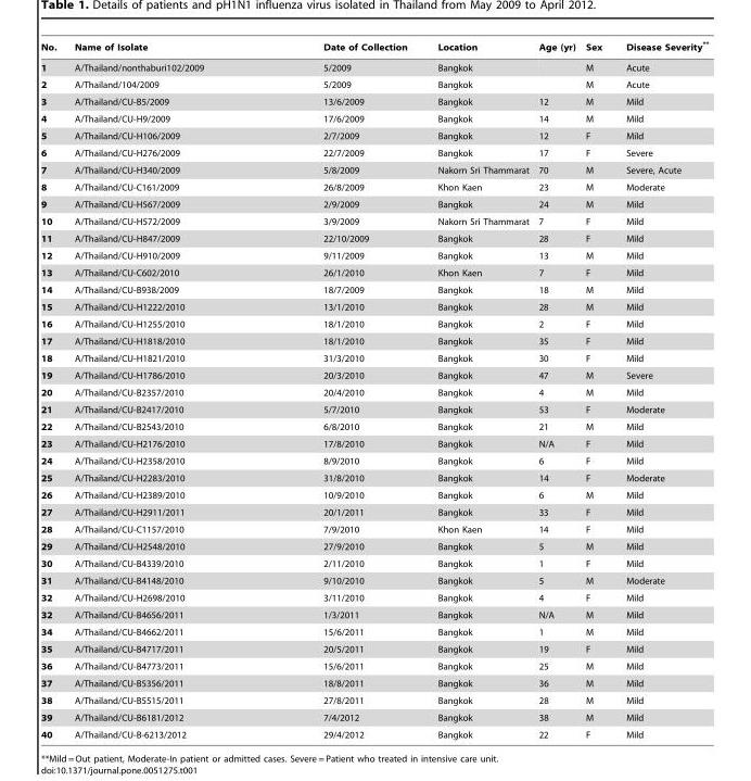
<table><thead><tr><td>No.</td><td>Name of Isolate</td><td>Date of Collection</td><td>Location</td><td>Age (yr)</td><td>Sex</td><td>Disease Severity**</td></tr></thead><tbody><tr><td>1</td><td>A/Thailand/nonthaburi102/2009</td><td>5/2009</td><td>Bangkok</td><td></td><td>M</td><td>Acute</td></tr><tr><td>2</td><td>A/Thailand/104/2009</td><td>5/2009</td><td>Bangkok</td><td></td><td>M</td><td>Acute</td></tr><tr><td>3</td><td>A/Thailand/CU-B5/2009</td><td>13/6/2009</td><td>Bangkok</td><td>12</td><td>M</td><td>Mild</td></tr><tr><td>4</td><td>A/Thailand/CU-H9/2009</td><td>17/6/2009</td><td>Bangkok</td><td>14</td><td>M</td><td>Mild</td></tr><tr><td>5</td><td>A/Thailand/CU-H106/2009</td><td>2/7/2009</td><td>Bangkok</td><td>12</td><td>F</td><td>Mild</td></tr><tr><td>6</td><td>A/Thailand/CU-H276/2009</td><td>22/7/2009</td><td>Bangkok</td><td>17</td><td>F</td><td>Severe</td></tr><tr><td>7</td><td>A/Thailand/CU-H340/2009</td><td>5/8/2009</td><td>Nakorn Sri Thammarat</td><td>70</td><td>M</td><td>Severe, Acute</td></tr><tr><td>8</td><td>A/Thailand/CU-C161/2009</td><td>26/8/2009</td><td>Khon Kaen</td><td>23</td><td>M</td><td>Moderate</td></tr><tr><td>9</td><td>A/Thailand/CU-H567/2009</td><td>2/9/2009</td><td>Bangkok</td><td>24</td><td>M</td><td>Mild</td></tr><tr><td>10</td><td>A/Thailand/CU-H572/2009</td><td>3/9/2009</td><td>Nakorn Sri Thammarat</td><td>7</td><td>F</td><td>Mild</td></tr><tr><td>11</td><td>A/Thailand/CU-H847/2009</td><td>22/10/2009</td><td>Bangkok</td><td>28</td><td>F</td><td>Mild</td></tr><tr><td>12</td><td>A/Thailand/CU-H910/2009</td><td>9/11/2009</td><td>Bangkok</td><td>13</td><td>M</td><td>Mild</td></tr><tr><td>13</td><td>A/Thailand/CU-C602/2010</td><td>26/1/2010</td><td>Khon Kaen</td><td>7</td><td>F</td><td>Mild</td></tr><tr><td>14</td><td>A/Thailand/CU-B938/2009</td><td>18/7/2009</td><td>Bangkok</td><td>18</td><td>M</td><td>Mild</td></tr><tr><td>15</td><td>A/Thailand/CU-H1222/2010</td><td>13/1/2010</td><td>Bangkok</td><td>28</td><td>M</td><td>Mild</td></tr><tr><td>16</td><td>A/Thailand/CU-H1255/2010</td><td>18/1/2010</td><td>Bangkok</td><td>2</td><td>F</td><td>Mild</td></tr><tr><td>17</td><td>A/Thailand/CU-H1818/2010</td><td>18/1/2010</td><td>Bangkok</td><td>35</td><td>F</td><td>Mild</td></tr><tr><td>18</td><td>A/Thailand/CU-H1821/2010</td><td>31/3/2010</td><td>Bangkok</td><td>30</td><td>F</td><td>Mild</td></tr><tr><td>19</td><td>A/Thailand/CU-H1786/2010</td><td>20/3/2010</td><td>Bangkok</td><td>47</td><td>M</td><td>Severe</td></tr><tr><td>20</td><td>A/Thailand/CU-B2357/2010</td><td>20/4/2010</td><td>Bangkok</td><td>4</td><td>M</td><td>Mild</td></tr><tr><td>21</td><td>A/Thailand/CU-B2417/2010</td><td>5/7/2010</td><td>Bangkok</td><td>53</td><td>F</td><td>Moderate</td></tr><tr><td>22</td><td>A/Thailand/CU-B2543/2010</td><td>6/8/2010</td><td>Bangkok</td><td>21</td><td>M</td><td>Mild</td></tr><tr><td>23</td><td>A/Thailand/CU-H2176/2010</td><td>17/8/2010</td><td>Bangkok</td><td>N/A</td><td>F</td><td>Mild</td></tr><tr><td>24</td><td>A/Thailand/CU-H2358/2010</td><td>8/9/2010</td><td>Bangkok</td><td>6</td><td>F</td><td>Mild</td></tr><tr><td>25</td><td>A/Thailand/CU-H2283/2010</td><td>31/8/2010</td><td>Bangkok</td><td>14</td><td>F</td><td>Moderate</td></tr><tr><td>26</td><td>A/Thailand/CU-H2389/2010</td><td>10/9/2010</td><td>Bangkok</td><td>6</td><td>M</td><td>Mild</td></tr><tr><td>27</td><td>A/Thailand/CU-H2911/2011</td><td>20/1/2011</td><td>Bangkok</td><td>33</td><td>F</td><td>Mild</td></tr><tr><td>28</td><td>A/Thailand/CU-C1157/2010</td><td>7/9/2010</td><td>Khon Kaen</td><td>14</td><td>F</td><td>Mild</td></tr><tr><td>29</td><td>A/Thailand/CU-H2548/2010</td><td>27/9/2010</td><td>Bangkok</td><td>5</td><td>M</td><td>Mild</td></tr><tr><td>30</td><td>A/Thailand/CU-B4339/2010</td><td>2/11/2010</td><td>Bangkok</td><td>1</td><td>F</td><td>Mild</td></tr><tr><td>31</td><td>A/Thailand/CU-B4148/2010</td><td>9/10/2010</td><td>Bangkok</td><td>5</td><td>M</td><td>Moderate</td></tr><tr><td>32</td><td>A/Thailand/CU-H2698/2010</td><td>3/11/2010</td><td>Bangkok</td><td>4</td><td>F</td><td>Mild</td></tr><tr><td>32</td><td>A/Thailand/CU-B4656/2011</td><td>1/3/2011</td><td>Bangkok</td><td>N/A</td><td>M</td><td>Mild</td></tr><tr><td>34</td><td>A/Thailand/CU-B4662/2011</td><td>15/6/2011</td><td>Bangkok</td><td>1</td><td>M</td><td>Mild</td></tr><tr><td>35</td><td>A/Thailand/CU-B4717/2011</td><td>20/5/2011</td><td>Bangkok</td><td>19</td><td>F</td><td>Mild</td></tr><tr><td>36</td><td>A/Thailand/CU-B4773/2011</td><td>15/6/2011</td><td>Bangkok</td><td>25</td><td>M</td><td>Mild</td></tr><tr><td>37</td><td>A/Thailand/CU-B5356/2011</td><td>18/8/2011</td><td>Bangkok</td><td>36</td><td>M</td><td>Mild</td></tr><tr><td>38</td><td>A/Thailand/CU-B5515/2011</td><td>27/8/2011</td><td>Bangkok</td><td>28</td><td>M</td><td>Mild</td></tr><tr><td>39</td><td>A/Thailand/CU-B6181/2012</td><td>7/4/2012</td><td>Bangkok</td><td>38</td><td>M</td><td>Mild</td></tr><tr><td>40</td><td>A/Thailand/CU-B-6213/2012</td><td>29/4/2012</td><td>Bangkok</td><td>22</td><td>F</td><td>Mild</td></tr></tbody></table>